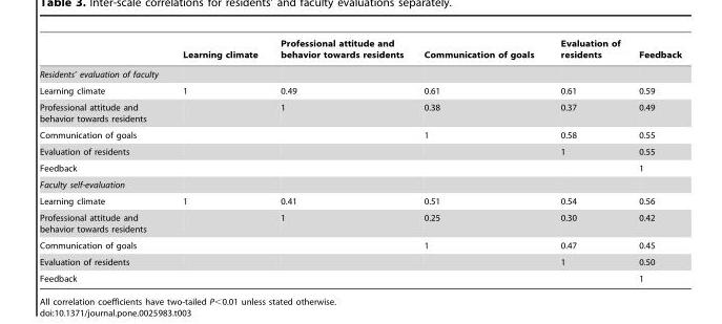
<table><thead><tr><td></td><td>Learning climate</td><td>Professional attitude and behavior towards residents</td><td>Communication of goals</td><td>Evaluation of residents</td><td>Feedback</td></tr></thead><tbody><tr><td colspan="6">Residents’ evaluation of faculty</td></tr><tr><td>Learning climate</td><td>1</td><td>0.49</td><td>0.61</td><td>0.61</td><td>0.59</td></tr><tr><td>Professional attitude and behavior towards residents</td><td></td><td>1</td><td>0.38</td><td>0.37</td><td>0.49</td></tr><tr><td>Communication of goals</td><td></td><td></td><td>1</td><td>0.58</td><td>0.55</td></tr><tr><td>Evaluation of residents</td><td></td><td></td><td></td><td>1</td><td>0.55</td></tr><tr><td>Feedback</td><td></td><td></td><td></td><td></td><td>1</td></tr><tr><td colspan="6">Faculty self-evaluation</td></tr><tr><td>Learning climate</td><td>1</td><td>0.41</td><td>0.51</td><td>0.54</td><td>0.56</td></tr><tr><td>Professional attitude and behavior towards residents</td><td></td><td>1</td><td>0.25</td><td>0.30</td><td>0.42</td></tr><tr><td>Communication of goals</td><td></td><td></td><td>1</td><td>0.47</td><td>0.45</td></tr><tr><td>Evaluation of residents</td><td></td><td></td><td></td><td>1</td><td>0.50</td></tr><tr><td>Feedback</td><td></td><td></td><td></td><td></td><td>1</td></tr></tbody></table>